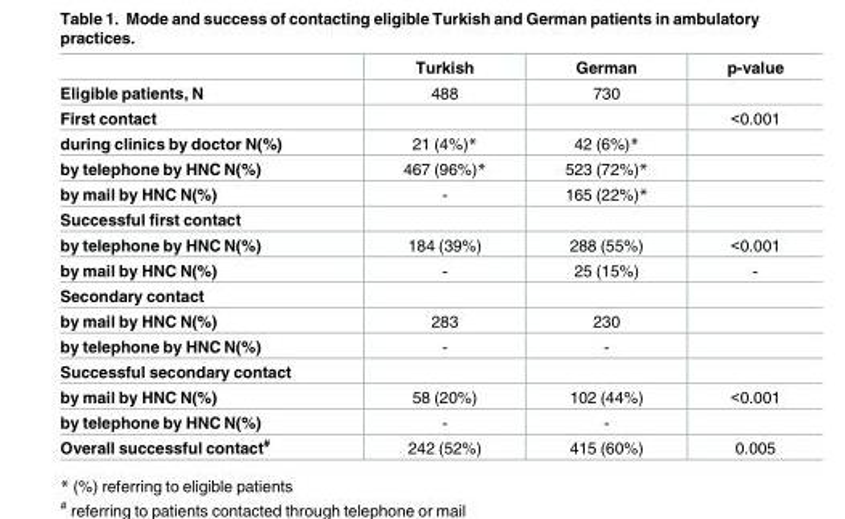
<table><thead><tr><td></td><td>Turkish</td><td>German</td><td>p-value</td></tr></thead><tbody><tr><td>Eligible patients, N</td><td>488</td><td>730</td><td></td></tr><tr><td>First contact</td><td></td><td></td><td>&lt;0.001</td></tr><tr><td>during clinics by doctor N(%)</td><td>21 (4%)*</td><td>42 (6%)*</td><td></td></tr><tr><td>by telephone by HNC N(%)</td><td>467 (96%)*</td><td>523 (72%)*</td><td></td></tr><tr><td>by mail by HNC N(%)</td><td>-</td><td>165 (22%)*</td><td></td></tr><tr><td colspan="4">Successful first contact</td></tr><tr><td>by telephone by HNC N(%)</td><td>184 (39%)</td><td>288 (55%)</td><td>&lt;0.001</td></tr><tr><td>by mail by HNC N(%)</td><td>-</td><td>25 (15%)</td><td>-</td></tr><tr><td colspan="4">Secondary contact</td></tr><tr><td>by mail by HNC N(%)</td><td>283</td><td>230</td><td></td></tr><tr><td>by telephone by HNC N(%)</td><td>-</td><td>-</td><td></td></tr><tr><td colspan="4">Successful secondary contact</td></tr><tr><td>by mail by HNC N(%)</td><td>58 (20%)</td><td>102 (44%)</td><td>&lt;0.001</td></tr><tr><td>by telephone by HNC N(%)</td><td>-</td><td>-</td><td></td></tr><tr><td>Overall successful contact<sup>#</sup></td><td>242 (52%)</td><td>415 (60%)</td><td>0.005</td></tr></tbody></table>